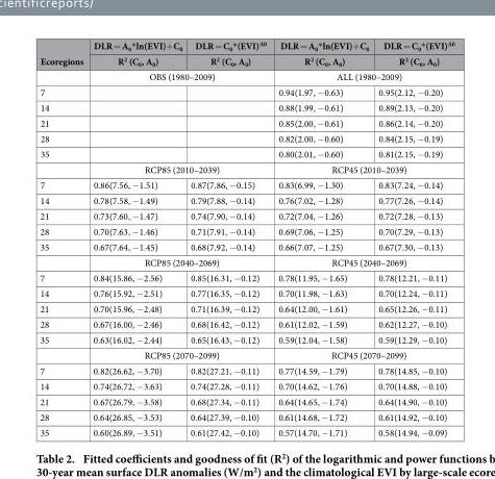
<table><thead><tr><td rowspan="2">Ecoregions</td><td rowspan="2">DLR = A<sub>0</sub>* ln(EVI)+ C<sub>0</sub> R<sup>2</sup> (C<sub>0</sub>, A<sub>0</sub>)</td><td rowspan="2">DLR = C<sub>0</sub>* (EVI)<sup>A0</sup> R<sup>2</sup> (C<sub>0</sub>, A<sub>0</sub>)</td><td rowspan="2">DLR = A<sub>0</sub>* ln(EVI)+ C<sub>0</sub> R<sup>2</sup> (C<sub>0</sub>, A<sub>0</sub>)</td><td rowspan="2">DLR = C<sub>0</sub>* (EVI)<sup>A0</sup> R<sup>2</sup> (C<sub>0</sub>, A<sub>0</sub>)</td></tr><tr></tr></thead><tbody><tr><td></td><td colspan="2">OBS (1980–2009)</td><td colspan="2">ALL (1980–2009)</td></tr><tr><td>7</td><td></td><td></td><td>0.94(1.97, − 0.63)</td><td>0.95(2.12, − 0.20)</td></tr><tr><td>14</td><td></td><td></td><td>0.88(1.99, − 0.61)</td><td>0.89(2.13, − 0.20)</td></tr><tr><td>21</td><td></td><td></td><td>0.85(2.00, − 0.61)</td><td>0.86(2.14, − 0.20)</td></tr><tr><td>28</td><td></td><td></td><td>0.82(2.00, − 0.60)</td><td>0.84(2.15, − 0.19)</td></tr><tr><td rowspan="2">35</td><td></td><td></td><td>0.80(2.01, − 0.60)</td><td>0.81(2.15, − 0.19)</td></tr><tr><td colspan="2">RCP85 (2010–2039)</td><td colspan="2">RCP45 (2010–2039)</td></tr><tr><td>7</td><td>0.86(7.56, − 1.51)</td><td>0.87(7.86, − 0.15)</td><td>0.83(6.99, − 1.30)</td><td>0.83(7.24, − 0.14)</td></tr><tr><td>14</td><td>0.78(7.58, − 1.49)</td><td>0.79(7.88, − 0.14)</td><td>0.76(7.02, − 1.28)</td><td>0.77(7.26, − 0.14)</td></tr><tr><td>21</td><td>0.73(7.60, − 1.47)</td><td>0.74(7.90, − 0.14)</td><td>0.72(7.04, − 1.26)</td><td>0.72(7.28, − 0.13)</td></tr><tr><td>28</td><td>0.70(7.63, − 1.46)</td><td>0.71(7.91, − 0.14)</td><td>0.69(7.06, − 1.25)</td><td>0.70(7.29, − 0.13)</td></tr><tr><td rowspan="2">35</td><td>0.67(7.64, − 1.45)</td><td>0.68(7.92, − 0.14)</td><td>0.66(7.07, − 1.25)</td><td>0.67(7.30, − 0.13)</td></tr><tr><td colspan="2">RCP85 (2040–2069)</td><td colspan="2">RCP45 (2040–2069)</td></tr><tr><td>7</td><td>0.84(15.86, − 2.56)</td><td>0.85(16.31, − 0.12)</td><td>0.78(11.95, − 1.65)</td><td>0.78(12.21, − 0.11)</td></tr><tr><td>14</td><td>0.76(15.92, − 2.51)</td><td>0.77(16.35, − 0.12)</td><td>0.70(11.98, − 1.63)</td><td>0.70(12.24, − 0.11)</td></tr><tr><td>21</td><td>0.70(15.96, − 2.48)</td><td>0.71(16.39, − 0.12)</td><td>0.64(12.00, − 1.61)</td><td>0.65(12.26, − 0.11)</td></tr><tr><td>28</td><td>0.67(16.00, − 2.46)</td><td>0.68(16.42, − 0.12)</td><td>0.61(12.02, − 1.59)</td><td>0.62(12.27, − 0.10)</td></tr><tr><td rowspan="2">35</td><td>0.63(16.02, − 2.44)</td><td>0.65(16.43, − 0.12)</td><td>0.59(12.04, − 1.58)</td><td>0.59(12.29, − 0.10)</td></tr><tr><td colspan="2">RCP85 (2070–2099)</td><td colspan="2">RCP45 (2070–2099)</td></tr><tr><td>7</td><td>0.82(26.62, − 3.70)</td><td>0.82(27.21, − 0.11)</td><td>0.77(14.59, − 1.79)</td><td>0.78(14.85, − 0.10)</td></tr><tr><td>14</td><td>0.74(26.72, − 3.63)</td><td>0.74(27.28, − 0.11)</td><td>0.70(14.62, − 1.76)</td><td>0.70(14.88, − 0.10)</td></tr><tr><td>21</td><td>0.67(26.79, − 3.58)</td><td>0.68(27.34, − 0.11)</td><td>0.64(14.65, − 1.74)</td><td>0.64(14.90, − 0.10)</td></tr><tr><td>28</td><td>0.64(26.85, − 3.53)</td><td>0.64(27.39, − 0.10)</td><td>0.61(14.68, − 1.72)</td><td>0.61(14.92, − 0.10)</td></tr><tr><td>35</td><td>0.60(26.89, − 3.51)</td><td>0.61(27.42, − 0.10)</td><td>0.57(14.70, − 1.71)</td><td>0.58(14.94, − 0.09)</td></tr></tbody></table>